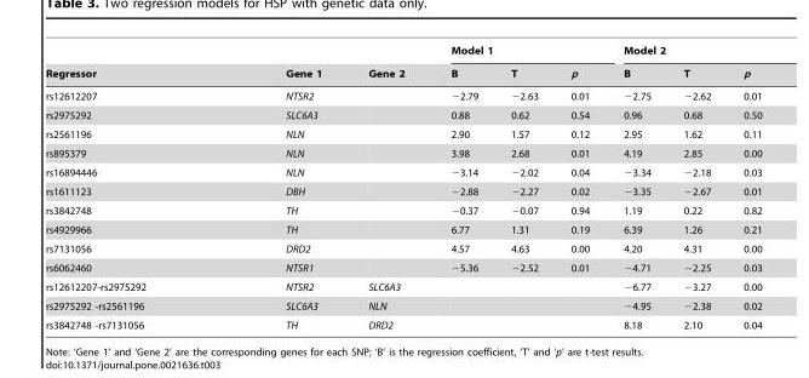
<table><thead><tr><td rowspan="2">Regressor</td><td rowspan="2">Gene 1</td><td rowspan="2">Gene 2</td><td colspan="3">Model 1</td><td colspan="3">Model 2</td></tr><tr><td>B</td><td>T</td><td>p</td><td>B</td><td>T</td><td>p</td></tr></thead><tbody><tr><td>rs12612207</td><td>NTSR2</td><td></td><td>−2.79</td><td>−2.63</td><td>0.01</td><td>−2.75</td><td>−2.62</td><td>0.01</td></tr><tr><td>rs2975292</td><td>SLC6A3</td><td></td><td>0.88</td><td>0.62</td><td>0.54</td><td>0.96</td><td>0.68</td><td>0.50</td></tr><tr><td>rs2561196</td><td>NLN</td><td></td><td>2.90</td><td>1.57</td><td>0.12</td><td>2.95</td><td>1.62</td><td>0.11</td></tr><tr><td>rs895379</td><td>NLN</td><td></td><td>3.98</td><td>2.68</td><td>0.01</td><td>4.19</td><td>2.85</td><td>0.00</td></tr><tr><td>rs16894446</td><td>NLN</td><td></td><td>−3.14</td><td>−2.02</td><td>0.04</td><td>−3.34</td><td>−2.18</td><td>0.03</td></tr><tr><td>rs1611123</td><td>DBH</td><td></td><td>−2.88</td><td>−2.27</td><td>0.02</td><td>−3.35</td><td>−2.67</td><td>0.01</td></tr><tr><td>rs3842748</td><td>TH</td><td></td><td>−0.37</td><td>−0.07</td><td>0.94</td><td>1.19</td><td>0.22</td><td>0.82</td></tr><tr><td>rs4929966</td><td>TH</td><td></td><td>6.77</td><td>1.31</td><td>0.19</td><td>6.39</td><td>1.26</td><td>0.21</td></tr><tr><td>rs7131056</td><td>DRD2</td><td></td><td>4.57</td><td>4.63</td><td>0.00</td><td>4.20</td><td>4.31</td><td>0.00</td></tr><tr><td>rs6062460</td><td>NTSR1</td><td></td><td>−5.36</td><td>−2.52</td><td>0.01</td><td>−4.71</td><td>−2.25</td><td>0.03</td></tr><tr><td>rs12612207-rs2975292</td><td>NTSR2</td><td>SLC6A3</td><td></td><td></td><td></td><td>−6.77</td><td>−3.27</td><td>0.00</td></tr><tr><td>rs2975292 -rs2561196</td><td>SLC6A3</td><td>NLN</td><td></td><td></td><td></td><td>−4.95</td><td>−2.38</td><td>0.02</td></tr><tr><td>rs3842748 -rs7131056</td><td>TH</td><td>DRD2</td><td></td><td></td><td></td><td>8.18</td><td>2.10</td><td>0.04</td></tr></tbody></table>